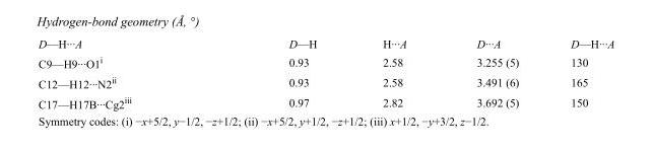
<table><tbody><tr><td>D—H···A</td><td>D—H</td><td>H···A</td><td>D···A</td><td>D—H···A</td></tr><tr><td>C9—H9···O1<sup>i</sup></td><td>0.93</td><td>2.58</td><td>3.255 (5)</td><td>130</td></tr><tr><td>C12—H12···N2<sup>ii</sup></td><td>0.93</td><td>2.58</td><td>3.491 (6)</td><td>165</td></tr><tr><td>C17—H17B···Cg2<sup>iii</sup></td><td>0.97</td><td>2.82</td><td>3.692 (5)</td><td>150</td></tr></tbody></table>